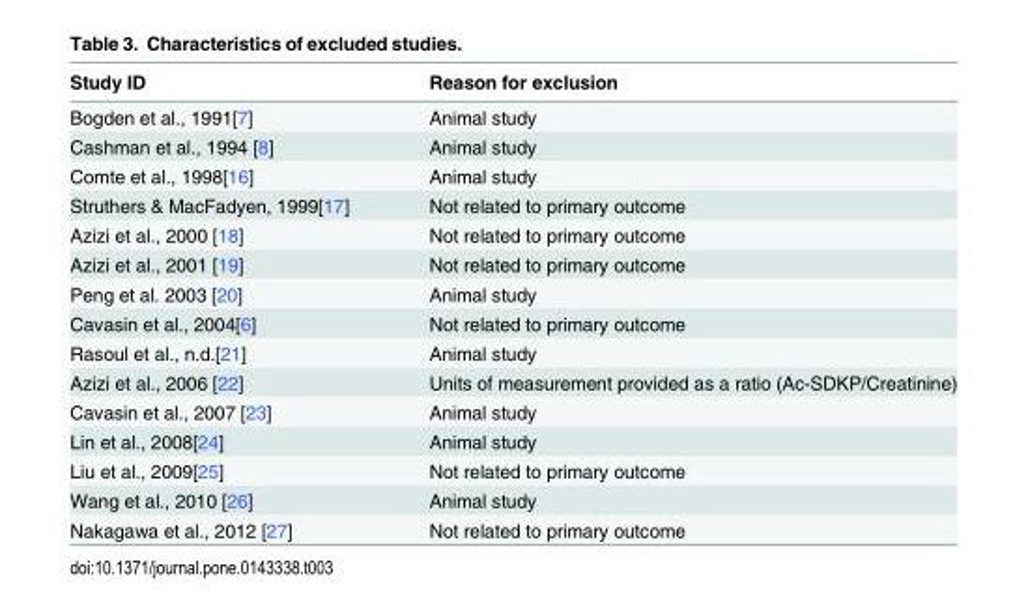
<table><thead><tr><td>Study ID</td><td>Reason for exclusion</td></tr></thead><tbody><tr><td>Bogden et al., 1991[7]</td><td>Animal study</td></tr><tr><td>Cashman et al., 1994 [8]</td><td>Animal study</td></tr><tr><td>Comte et al., 1998[16]</td><td>Animal study</td></tr><tr><td>Struthers &amp; MacFadyen, 1999[17]</td><td>Not related to primary outcome</td></tr><tr><td>Azizi et al., 2000 [18]</td><td>Not related to primary outcome</td></tr><tr><td>Azizi et al., 2001 [19]</td><td>Not related to primary outcome</td></tr><tr><td>Peng et al. 2003 [20]</td><td>Animal study</td></tr><tr><td>Cavasin et al., 2004[6]</td><td>Not related to primary outcome</td></tr><tr><td>Rasoul et al., n.d.[21]</td><td>Animal study</td></tr><tr><td>Azizi et al., 2006 [22]</td><td>Units of measurement provided as a ratio (Ac-SDKP/Creatinine)</td></tr><tr><td>Cavasin et al., 2007 [23]</td><td>Animal study</td></tr><tr><td>Lin et al., 2008[24]</td><td>Animal study</td></tr><tr><td>Liu et al., 2009[25]</td><td>Not related to primary outcome</td></tr><tr><td>Wang et al., 2010 [26]</td><td>Animal study</td></tr><tr><td>Nakagawa et al., 2012 [27]</td><td>Not related to primary outcome</td></tr></tbody></table>